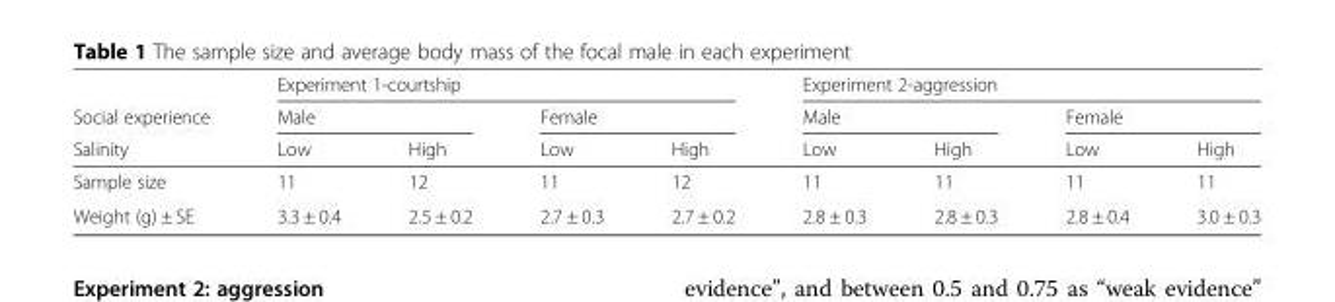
<table><thead><tr><td rowspan="3">Social experience Salinity</td><td colspan="4">Experiment 1-courtship</td><td colspan="4">Experiment 2-aggression</td></tr><tr><td colspan="2">Male</td><td colspan="2">Female</td><td colspan="2">Male</td><td colspan="2">Female</td></tr><tr><td>Low</td><td>High</td><td>Low</td><td>High</td><td>Low</td><td>High</td><td>Low</td><td>High</td></tr></thead><tbody><tr><td>Sample size</td><td>11</td><td>12</td><td>11</td><td>12</td><td>11</td><td>11</td><td>11</td><td>11</td></tr><tr><td>Weight (g) ± SE</td><td>3.3 ± 0.4</td><td>2.5 ± 0.2</td><td>2.7 ± 0.3</td><td>2.7 ± 0.2</td><td>2.8 ± 0.3</td><td>2.8 ± 0.3</td><td>2.8 ± 0.4</td><td>3.0 ± 0.3</td></tr></tbody></table>